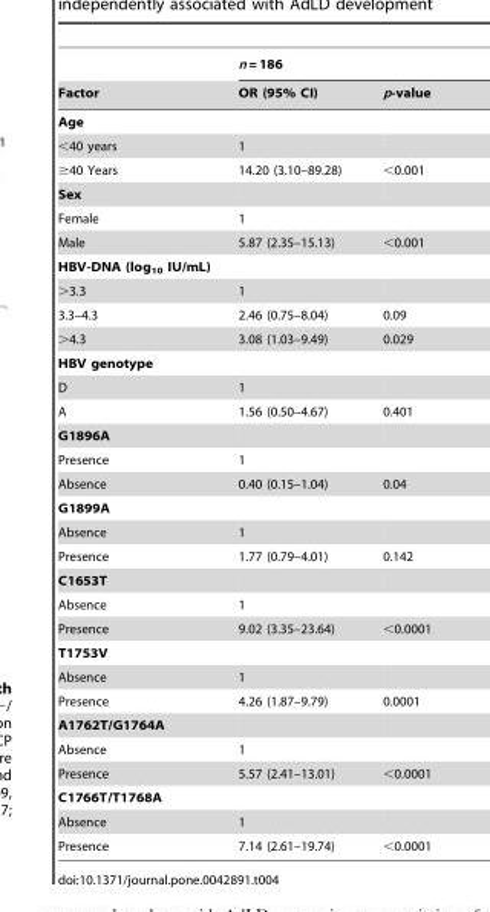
<table><thead><tr><td rowspan="2">Factor</td><td colspan="2">n = 186</td></tr><tr><td>OR (95% CI)</td><td>p-value</td></tr></thead><tbody><tr><td colspan="3">Age</td></tr><tr><td>&lt;40 years</td><td>1</td><td></td></tr><tr><td>≥40 Years</td><td>14.20 (3.10–89.28)</td><td>&lt;0.001</td></tr><tr><td colspan="3">Sex</td></tr><tr><td>Female</td><td>1</td><td></td></tr><tr><td>Male</td><td>5.87 (2.35–15.13)</td><td>&lt;0.001</td></tr><tr><td colspan="3">HBV-DNA (log<sub>10</sub> IU/mL)</td></tr><tr><td>&gt;3.3</td><td>1</td><td></td></tr><tr><td>3.3–4.3</td><td>2.46 (0.75–8.04)</td><td>0.09</td></tr><tr><td>&gt;4.3</td><td>3.08 (1.03–9.49)</td><td>0.029</td></tr><tr><td colspan="3">HBV genotype</td></tr><tr><td>D</td><td>1</td><td></td></tr><tr><td>A</td><td>1.56 (0.50–4.67)</td><td>0.401</td></tr><tr><td colspan="3">G1896A</td></tr><tr><td>Presence</td><td>1</td><td></td></tr><tr><td>Absence</td><td>0.40 (0.15–1.04)</td><td>0.04</td></tr><tr><td colspan="3">G1899A</td></tr><tr><td>Absence</td><td>1</td><td></td></tr><tr><td>Presence</td><td>1.77 (0.79–4.01)</td><td>0.142</td></tr><tr><td colspan="3">C1653T</td></tr><tr><td>Absence</td><td>1</td><td></td></tr><tr><td>Presence</td><td>9.02 (3.35–23.64)</td><td>&lt;0.0001</td></tr><tr><td colspan="3">T1753V</td></tr><tr><td>Absence</td><td>1</td><td></td></tr><tr><td>Presence</td><td>4.26 (1.87–9.79)</td><td>0.0001</td></tr><tr><td colspan="3">A1762T/G1764A</td></tr><tr><td>Absence</td><td>1</td><td></td></tr><tr><td>Presence</td><td>5.57 (2.41–13.01)</td><td>&lt;0.0001</td></tr><tr><td colspan="3">C1766T/T1768A</td></tr><tr><td>Absence</td><td>1</td><td></td></tr><tr><td>Presence</td><td>7.14 (2.61–19.74)</td><td>&lt;0.0001</td></tr></tbody></table>